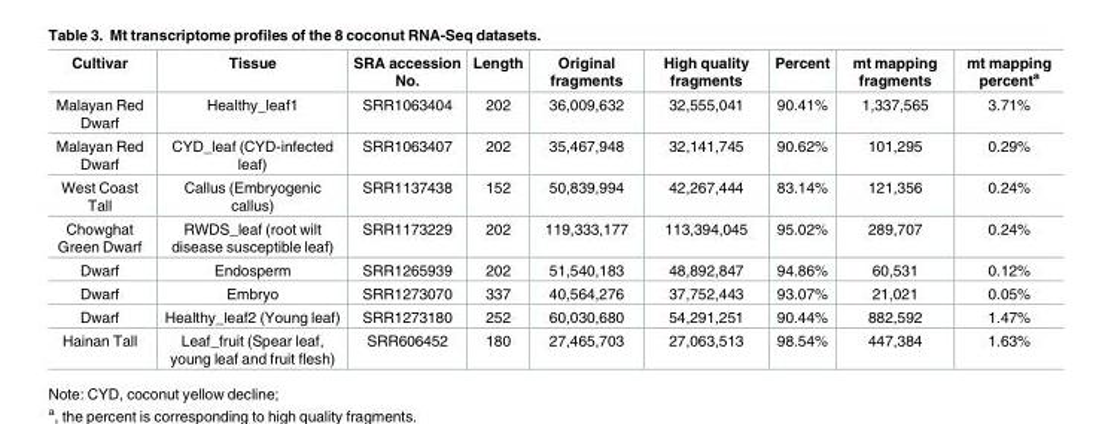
<table><thead><tr><td>Cultivar</td><td>Tissue</td><td>SRA accession No.</td><td>Length</td><td>Original fragments</td><td>High quality fragments</td><td>Percent</td><td>mt mapping fragments</td><td>mt mapping percent<sup>a</sup></td></tr></thead><tbody><tr><td>Malayan Red Dwarf</td><td>Healthy_leaf1</td><td>SRR1063404</td><td>202</td><td>36,009,632</td><td>32,555,041</td><td>90.41%</td><td>1,337,565</td><td>3.71%</td></tr><tr><td>Malayan Red Dwarf</td><td>CYD_leaf (CYD-infected leaf)</td><td>SRR1063407</td><td>202</td><td>35,467,948</td><td>32,141,745</td><td>90.62%</td><td>101,295</td><td>0.29%</td></tr><tr><td>West Coast Tall</td><td>Callus (Embryogenic callus)</td><td>SRR1137438</td><td>152</td><td>50,839,994</td><td>42,267,444</td><td>83.14%</td><td>121,356</td><td>0.24%</td></tr><tr><td>Chowghat Green Dwarf</td><td>RWDS_leaf (root wilt disease susceptible leaf)</td><td>SRR1173229</td><td>202</td><td>119,333,177</td><td>113,394,045</td><td>95.02%</td><td>289,707</td><td>0.24%</td></tr><tr><td>Dwarf</td><td>Endosperm</td><td>SRR1265939</td><td>202</td><td>51,540,183</td><td>48,892,847</td><td>94.86%</td><td>60,531</td><td>0.12%</td></tr><tr><td>Dwarf</td><td>Embryo</td><td>SRR1273070</td><td>337</td><td>40,564,276</td><td>37,752,443</td><td>93.07%</td><td>21,021</td><td>0.05%</td></tr><tr><td>Dwarf</td><td>Healthy_leaf2 (Young leaf)</td><td>SRR1273180</td><td>252</td><td>60,030,680</td><td>54,291,251</td><td>90.44%</td><td>882,592</td><td>1.47%</td></tr><tr><td>Hainan Tall</td><td>Leaf_fruit (Spear leaf, young leaf and fruit flesh)</td><td>SRR606452</td><td>180</td><td>27,465,703</td><td>27,063,513</td><td>98.54%</td><td>447,384</td><td>1.63%</td></tr></tbody></table>